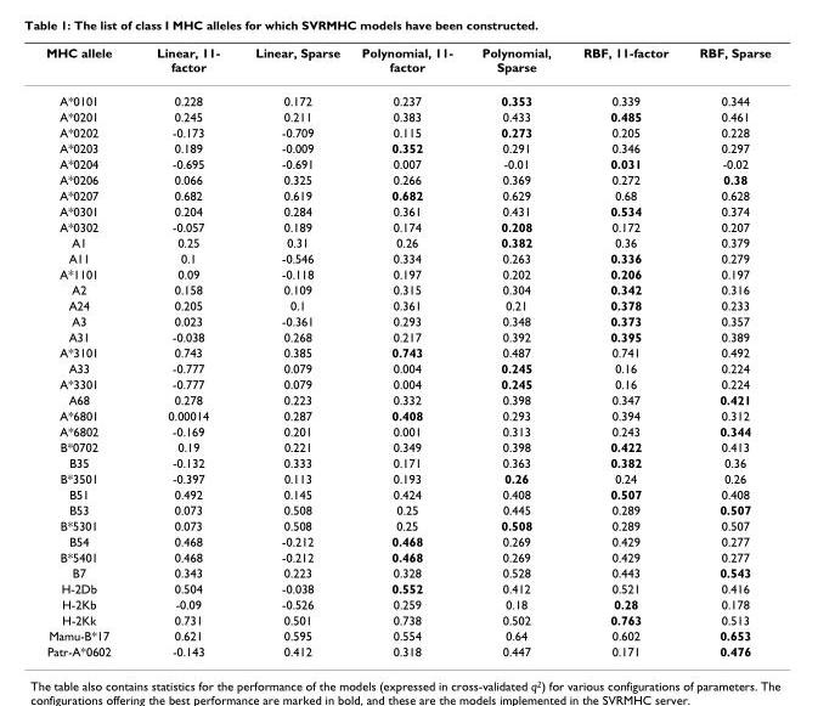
<table><thead><tr><td>MHC allele</td><td>Linear, 11- factor</td><td>Linear, Sparse</td><td>Polynomial, 11- factor</td><td>Polynomial, Sparse</td><td>RBF, 11-factor</td><td>RBF, Sparse</td></tr></thead><tbody><tr><td>A*0101</td><td>0.228</td><td>0.172</td><td>0.237</td><td>0.353</td><td>0.339</td><td>0.344</td></tr><tr><td>A*0201</td><td>0.245</td><td>0.211</td><td>0.383</td><td>0.433</td><td>0.485</td><td>0.461</td></tr><tr><td>A*0202</td><td>-0.173</td><td>-0.709</td><td>0.115</td><td>0.273</td><td>0.205</td><td>0.228</td></tr><tr><td>A*0203</td><td>0.189</td><td>-0.009</td><td>0.352</td><td>0.291</td><td>0.346</td><td>0.297</td></tr><tr><td>A*0204</td><td>-0.695</td><td>-0.691</td><td>0.007</td><td>-0.01</td><td>0.031</td><td>-0.02</td></tr><tr><td>A*0206</td><td>0.066</td><td>0.325</td><td>0.266</td><td>0.369</td><td>0.272</td><td>0.38</td></tr><tr><td>A*0207</td><td>0.682</td><td>0.619</td><td>0.682</td><td>0.629</td><td>0.68</td><td>0.628</td></tr><tr><td>A*0301</td><td>0.204</td><td>0.284</td><td>0.361</td><td>0.431</td><td>0.534</td><td>0.374</td></tr><tr><td>A*0302</td><td>-0.057</td><td>0.189</td><td>0.174</td><td>0.208</td><td>0.172</td><td>0.207</td></tr><tr><td>A1</td><td>0.25</td><td>0.31</td><td>0.26</td><td>0.382</td><td>0.36</td><td>0.379</td></tr><tr><td>A11</td><td>0.1</td><td>-0.546</td><td>0.334</td><td>0.263</td><td>0.336</td><td>0.279</td></tr><tr><td>A*1101</td><td>0.09</td><td>-0.118</td><td>0.197</td><td>0.202</td><td>0.206</td><td>0.197</td></tr><tr><td>A2</td><td>0.158</td><td>0.109</td><td>0.315</td><td>0.304</td><td>0.342</td><td>0.316</td></tr><tr><td>A24</td><td>0.205</td><td>0.1</td><td>0.361</td><td>0.21</td><td>0.378</td><td>0.233</td></tr><tr><td>A3</td><td>0.023</td><td>-0.361</td><td>0.293</td><td>0.348</td><td>0.373</td><td>0.357</td></tr><tr><td>A31</td><td>-0.038</td><td>0.268</td><td>0.217</td><td>0.392</td><td>0.395</td><td>0.389</td></tr><tr><td>A*3101</td><td>0.743</td><td>0.385</td><td>0.743</td><td>0.487</td><td>0.741</td><td>0.492</td></tr><tr><td>A33</td><td>-0.777</td><td>0.079</td><td>0.004</td><td>0.245</td><td>0.16</td><td>0.224</td></tr><tr><td>A*3301</td><td>-0.777</td><td>0.079</td><td>0.004</td><td>0.245</td><td>0.16</td><td>0.224</td></tr><tr><td>A68</td><td>0.278</td><td>0.223</td><td>0.332</td><td>0.398</td><td>0.347</td><td>0.421</td></tr><tr><td>A*6801</td><td>0.00014</td><td>0.287</td><td>0.408</td><td>0.293</td><td>0.394</td><td>0.312</td></tr><tr><td>A*6802</td><td>-0.169</td><td>0.201</td><td>0.001</td><td>0.313</td><td>0.243</td><td>0.344</td></tr><tr><td>B*0702</td><td>0.19</td><td>0.221</td><td>0.349</td><td>0.398</td><td>0.422</td><td>0.413</td></tr><tr><td>B35</td><td>-0.132</td><td>0.333</td><td>0.171</td><td>0.363</td><td>0.382</td><td>0.36</td></tr><tr><td>B*3501</td><td>-0.397</td><td>0.113</td><td>0.193</td><td>0.26</td><td>0.24</td><td>0.26</td></tr><tr><td>B51</td><td>0.492</td><td>0.145</td><td>0.424</td><td>0.408</td><td>0.507</td><td>0.408</td></tr><tr><td>B53</td><td>0.073</td><td>0.508</td><td>0.25</td><td>0.445</td><td>0.289</td><td>0.507</td></tr><tr><td>B*5301</td><td>0.073</td><td>0.508</td><td>0.25</td><td>0.508</td><td>0.289</td><td>0.507</td></tr><tr><td>B54</td><td>0.468</td><td>-0.212</td><td>0.468</td><td>0.269</td><td>0.429</td><td>0.277</td></tr><tr><td>B*5401</td><td>0.468</td><td>-0.212</td><td>0.468</td><td>0.269</td><td>0.429</td><td>0.277</td></tr><tr><td>B7</td><td>0.343</td><td>0.223</td><td>0.328</td><td>0.528</td><td>0.443</td><td>0.543</td></tr><tr><td>H-2Db</td><td>0.504</td><td>-0.038</td><td>0.552</td><td>0.412</td><td>0.521</td><td>0.416</td></tr><tr><td>H-2Kb</td><td>-0.09</td><td>-0.526</td><td>0.259</td><td>0.18</td><td>0.28</td><td>0.178</td></tr><tr><td>H-2Kk</td><td>0.731</td><td>0.501</td><td>0.738</td><td>0.502</td><td>0.763</td><td>0.513</td></tr><tr><td>Mamu-B*17</td><td>0.621</td><td>0.595</td><td>0.554</td><td>0.64</td><td>0.602</td><td>0.653</td></tr><tr><td>Patr-A*0602</td><td>-0.143</td><td>0.412</td><td>0.318</td><td>0.447</td><td>0.171</td><td>0.476</td></tr></tbody></table>